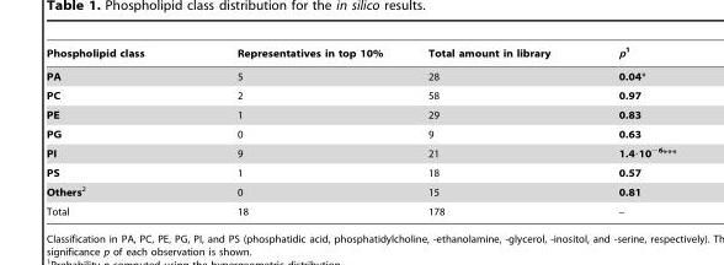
<table><thead><tr><td>Phospholipid class</td><td>Representatives in top 10%</td><td>Total amount in library</td><td>p1</td></tr></thead><tbody><tr><td>PA</td><td>5</td><td>28</td><td>0.04*</td></tr><tr><td>PC</td><td>2</td><td>58</td><td>0.97</td></tr><tr><td>PE</td><td>1</td><td>29</td><td>0.83</td></tr><tr><td>PG</td><td>0</td><td>9</td><td>0.63</td></tr><tr><td>PI</td><td>9</td><td>21</td><td>1.4·10<sup>−6</sup>***</td></tr><tr><td>PS</td><td>1</td><td>18</td><td>0.57</td></tr><tr><td>Others2</td><td>0</td><td>15</td><td>0.81</td></tr><tr><td>Total</td><td>18</td><td>178</td><td>–</td></tr></tbody></table>